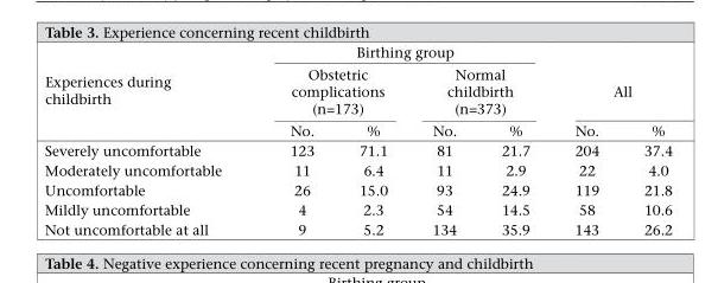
<table><thead><tr><td rowspan="3">Experiences during childbirth</td><td colspan="4">Birthing group</td><td rowspan="2" colspan="2">All</td></tr><tr><td colspan="2">Obstetric complications (n=173)</td><td colspan="2">Normal childbirth (n=373)</td></tr><tr><td>No.</td><td>%</td><td>No.</td><td>%</td><td>No.</td><td>%</td></tr></thead><tbody><tr><td>Severely uncomfortable</td><td>123</td><td>71.1</td><td>81</td><td>21.7</td><td>204</td><td>37.4</td></tr><tr><td>Moderately uncomfortable</td><td>11</td><td>6.4</td><td>11</td><td>2.9</td><td>22</td><td>4.0</td></tr><tr><td>Uncomfortable</td><td>26</td><td>15.0</td><td>93</td><td>24.9</td><td>119</td><td>21.8</td></tr><tr><td>Mildly uncomfortable</td><td>4</td><td>2.3</td><td>54</td><td>14.5</td><td>58</td><td>10.6</td></tr><tr><td>Not uncomfortable at all</td><td>9</td><td>5.2</td><td>134</td><td>35.9</td><td>143</td><td>26.2</td></tr></tbody></table>